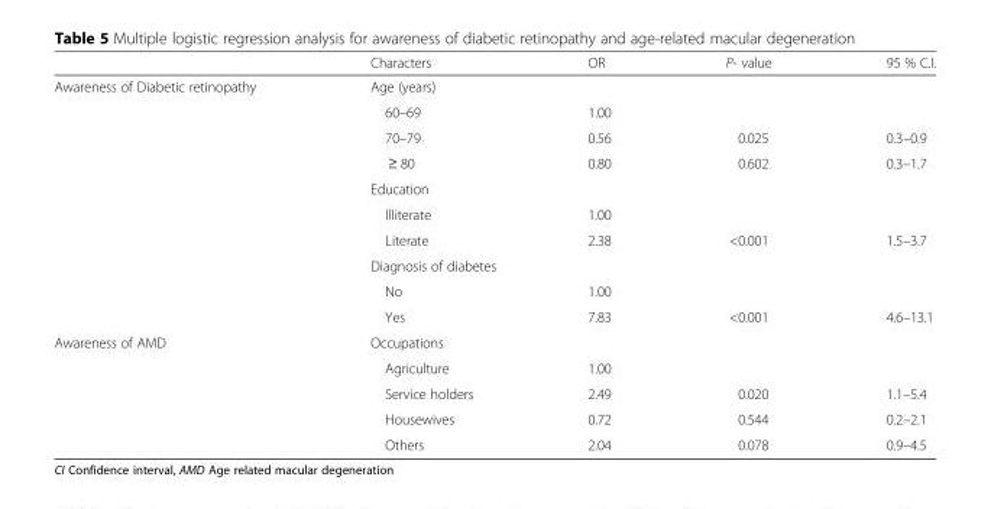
<table><thead><tr><td></td><td>Characters</td><td>OR</td><td>P- value</td><td>95 % C.I.</td></tr></thead><tbody><tr><td rowspan="10">Awareness of Diabetic retinopathy</td><td colspan="4">Age (years)</td></tr><tr><td>60–69</td><td>1.00</td><td></td><td></td></tr><tr><td>70–79</td><td>0.56</td><td>0.025</td><td>0.3–0.9</td></tr><tr><td>≥ 80</td><td>0.80</td><td>0.602</td><td>0.3–1.7</td></tr><tr><td colspan="4">Education</td></tr><tr><td>Illiterate</td><td>1.00</td><td></td><td></td></tr><tr><td>Literate</td><td>2.38</td><td>&lt;0.001</td><td>1.5–3.7</td></tr><tr><td colspan="4">Diagnosis of diabetes</td></tr><tr><td>No</td><td>1.00</td><td></td><td></td></tr><tr><td>Yes</td><td>7.83</td><td>&lt;0.001</td><td>4.6–13.1</td></tr><tr><td rowspan="5">Awareness of AMD</td><td colspan="4">Occupations</td></tr><tr><td>Agriculture</td><td>1.00</td><td></td><td></td></tr><tr><td>Service holders</td><td>2.49</td><td>0.020</td><td>1.1–5.4</td></tr><tr><td>Housewives</td><td>0.72</td><td>0.544</td><td>0.2–2.1</td></tr><tr><td>Others</td><td>2.04</td><td>0.078</td><td>0.9–4.5</td></tr></tbody></table>